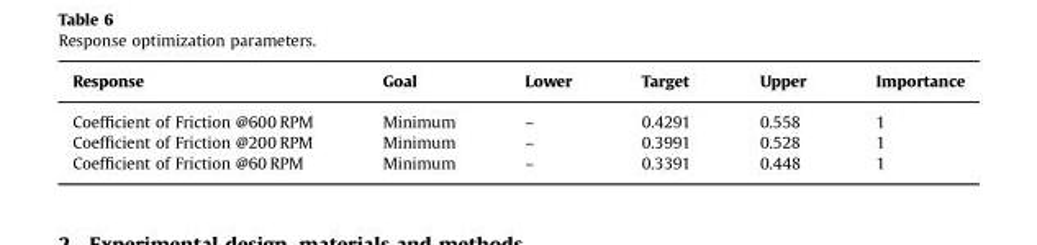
<table><thead><tr><td>Response</td><td>Goal</td><td>Lower</td><td>Target</td><td>Upper</td><td>Importance</td></tr></thead><tbody><tr><td>Coefficient of Friction @600 RPM</td><td>Minimum</td><td>–</td><td>0.4291</td><td>0.558</td><td>1</td></tr><tr><td>Coefficient of Friction @200 RPM</td><td>Minimum</td><td>–</td><td>0.3991</td><td>0.528</td><td>1</td></tr><tr><td>Coefficient of Friction @60 RPM</td><td>Minimum</td><td>–</td><td>0.3391</td><td>0.448</td><td>1</td></tr></tbody></table>